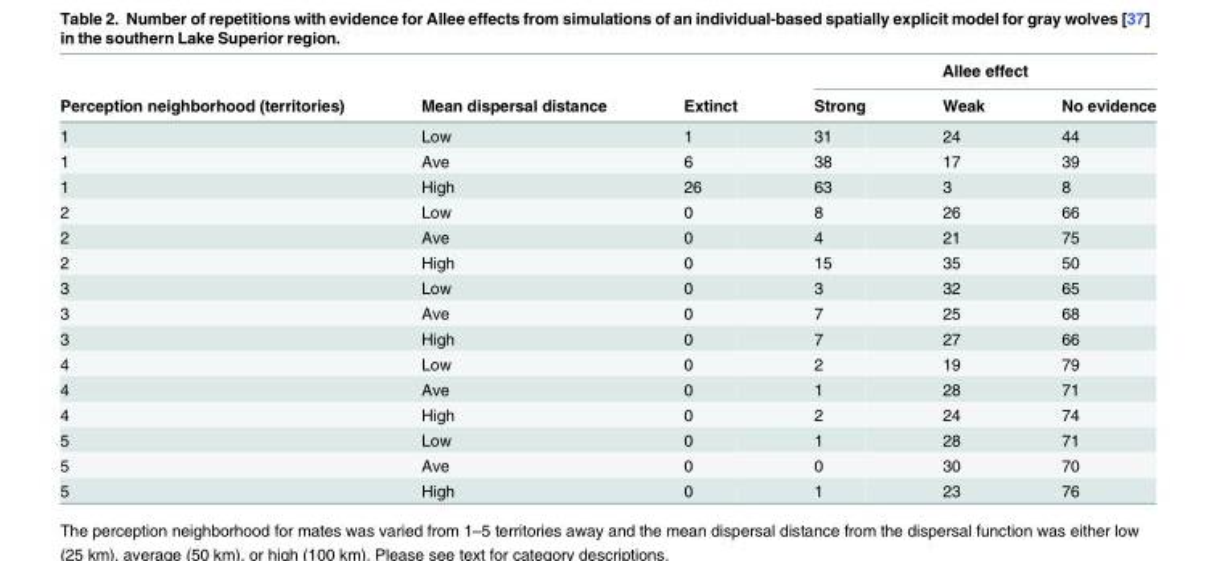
<table><thead><tr><td rowspan="2">Perception neighborhood (territories)</td><td rowspan="2">Mean dispersal distance</td><td rowspan="2">Extinct</td><td colspan="3">Allee effect</td></tr><tr><td>Strong</td><td>Weak</td><td>No evidence</td></tr></thead><tbody><tr><td>1</td><td>Low</td><td>1</td><td>31</td><td>24</td><td>44</td></tr><tr><td>1</td><td>Ave</td><td>6</td><td>38</td><td>17</td><td>39</td></tr><tr><td>1</td><td>High</td><td>26</td><td>63</td><td>3</td><td>8</td></tr><tr><td>2</td><td>Low</td><td>0</td><td>8</td><td>26</td><td>66</td></tr><tr><td>2</td><td>Ave</td><td>0</td><td>4</td><td>21</td><td>75</td></tr><tr><td>2</td><td>High</td><td>0</td><td>15</td><td>35</td><td>50</td></tr><tr><td>3</td><td>Low</td><td>0</td><td>3</td><td>32</td><td>65</td></tr><tr><td>3</td><td>Ave</td><td>0</td><td>7</td><td>25</td><td>68</td></tr><tr><td>3</td><td>High</td><td>0</td><td>7</td><td>27</td><td>66</td></tr><tr><td>4</td><td>Low</td><td>0</td><td>2</td><td>19</td><td>79</td></tr><tr><td>4</td><td>Ave</td><td>0</td><td>1</td><td>28</td><td>71</td></tr><tr><td>4</td><td>High</td><td>0</td><td>2</td><td>24</td><td>74</td></tr><tr><td>5</td><td>Low</td><td>0</td><td>1</td><td>28</td><td>71</td></tr><tr><td>5</td><td>Ave</td><td>0</td><td>0</td><td>30</td><td>70</td></tr><tr><td>5</td><td>High</td><td>0</td><td>1</td><td>23</td><td>76</td></tr></tbody></table>